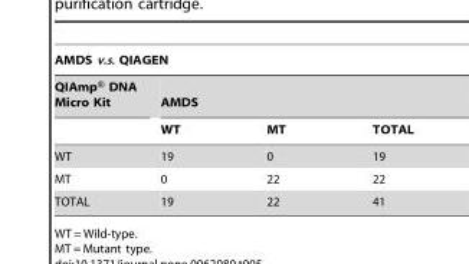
<table><thead><tr><td colspan="4">AMDS v.s. QIAGEN</td></tr><tr><td rowspan="2">QIAmp® DNA Micro Kit</td><td colspan="3">AMDS</td></tr><tr><td>WT</td><td>MT</td><td>TOTAL</td></tr></thead><tbody><tr><td>WT</td><td>19</td><td>0</td><td>19</td></tr><tr><td>MT</td><td>0</td><td>22</td><td>22</td></tr><tr><td>TOTAL</td><td>19</td><td>22</td><td>41</td></tr></tbody></table>